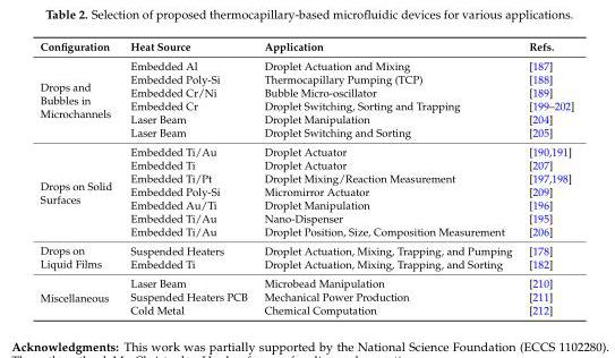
<table><thead><tr><td>Configuration</td><td>Heat Source</td><td>Application</td><td>Refs.</td></tr></thead><tbody><tr><td rowspan="6">Drops and Bubbles in Microchannels</td><td>Embedded Al</td><td>Droplet Actuation and Mixing</td><td>[187]</td></tr><tr><td>Embedded Poly-Si</td><td>Thermocapillary Pumping (TCP)</td><td>[188]</td></tr><tr><td>Embedded Cr/Ni</td><td>Bubble Micro-oscillator</td><td>[189]</td></tr><tr><td>Embedded Cr</td><td>Droplet Switching, Sorting and Trapping</td><td>[199–202]</td></tr><tr><td>Laser Beam</td><td>Droplet Manipulation</td><td>[204]</td></tr><tr><td>Laser Beam</td><td>Droplet Switching and Sorting</td><td>[205]</td></tr><tr><td rowspan="7">Drops on Solid Surfaces</td><td>Embedded Ti/Au</td><td>Droplet Actuator</td><td>[190,191]</td></tr><tr><td>Embedded Ti</td><td>Droplet Actuator</td><td>[207]</td></tr><tr><td>Embedded Ti/Pt</td><td>Droplet Mixing/Reaction Measurement</td><td>[197,198]</td></tr><tr><td>Embedded Poly-Si</td><td>Micromirror Actuator</td><td>[209]</td></tr><tr><td>Embedded Au/Ti</td><td>Droplet Manipulation</td><td>[196]</td></tr><tr><td>Embedded Ti/Au</td><td>Nano-Dispenser</td><td>[195]</td></tr><tr><td>Embedded Ti/Au</td><td>Droplet Position, Size, Composition Measurement</td><td>[206]</td></tr><tr><td rowspan="2">Drops on Liquid Films</td><td>Suspended Heaters</td><td>Droplet Actuation, Mixing, Trapping, and Pumping</td><td>[178]</td></tr><tr><td>Embedded Ti</td><td>Droplet Actuation, Mixing, Trapping, and Sorting</td><td>[182]</td></tr><tr><td rowspan="3">Miscellaneous</td><td>Laser Beam</td><td>Microbead Manipulation</td><td>[210]</td></tr><tr><td>Suspended Heaters PCB</td><td>Mechanical Power Production</td><td>[211]</td></tr><tr><td>Cold Metal</td><td>Chemical Computation</td><td>[212]</td></tr></tbody></table>